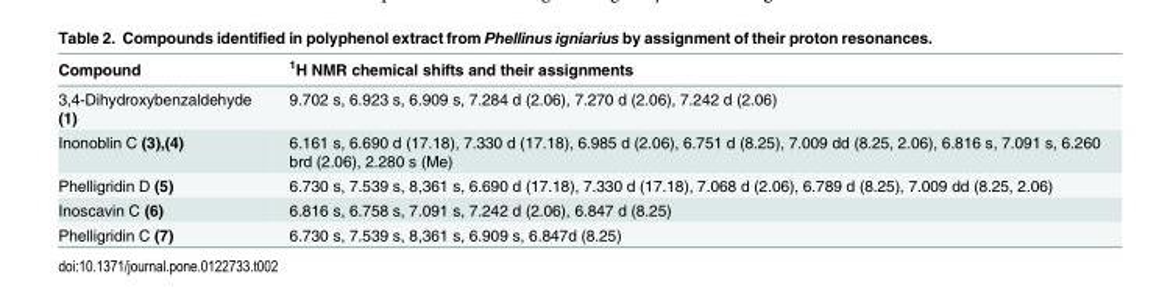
<table><thead><tr><td>Compound</td><td><sup>1</sup>H NMR chemical shifts and their assignments</td></tr></thead><tbody><tr><td>3,4-Dihydroxybenzaldehyde (1)</td><td>9.702 s, 6.923 s, 6.909 s, 7.284 d (2.06), 7.270 d (2.06), 7.242 d (2.06)</td></tr><tr><td>Inonoblin C (3),(4)</td><td>6.161 s, 6.690 d (17.18), 7.330 d (17.18), 6.985 d (2.06), 6.751 d (8.25), 7.009 dd (8.25, 2.06), 6.816 s, 7.091 s, 6.260 brd (2.06), 2.280 s (Me)</td></tr><tr><td>Phelligridin D (5)</td><td>6.730 s, 7.539 s, 8,361 s, 6.690 d (17.18), 7.330 d (17.18), 7.068 d (2.06), 6.789 d (8.25), 7.009 dd (8.25, 2.06)</td></tr><tr><td>Inoscavin C (6)</td><td>6.816 s, 6.758 s, 7.091 s, 7.242 d (2.06), 6.847 d (8.25)</td></tr><tr><td>Phelligridin C (7)</td><td>6.730 s, 7.539 s, 8,361 s, 6.909 s, 6.847d (8.25)</td></tr></tbody></table>